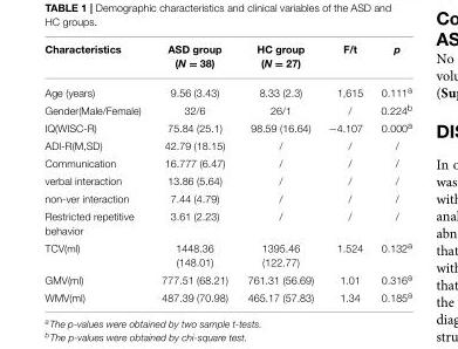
<table><thead><tr><td>Characteristics</td><td>ASD group (N = 38)</td><td>HC group (N = 27)</td><td>F/t</td><td>p</td></tr></thead><tbody><tr><td>Age (years)</td><td>9.56 (3.43)</td><td>8.33 (2.3)</td><td>1,615</td><td>0.111<sup>a</sup></td></tr><tr><td>Gender(Male/Female)</td><td>32/6</td><td>26/1</td><td>/</td><td>0.224<sup>b</sup></td></tr><tr><td>IQ(WISC-R)</td><td>75.84 (25.1)</td><td>98.59 (16.64)</td><td>−4.107</td><td>0.000<sup>a</sup></td></tr><tr><td>ADI-R(M,SD)</td><td>42.79 (18.15)</td><td>/</td><td>/</td><td>/</td></tr><tr><td>Communication</td><td>16.777 (6.47)</td><td>/</td><td>/</td><td>/</td></tr><tr><td>verbal interaction</td><td>13.86 (5.64)</td><td>/</td><td>/</td><td>/</td></tr><tr><td>non-ver interaction</td><td>7.44 (4.79)</td><td>/</td><td>/</td><td>/</td></tr><tr><td>Restricted repetitive behavior</td><td>3.61 (2.23)</td><td>/</td><td>/</td><td>/</td></tr><tr><td>TCV(ml)</td><td>1448.36 (148.01)</td><td>1395.46 (122.77)</td><td>1.524</td><td>0.132<sup>a</sup></td></tr><tr><td>GMV(ml)</td><td>777.51 (68.21)</td><td>761.31 (56.69)</td><td>1.01</td><td>0.316<sup>a</sup></td></tr><tr><td>WMV(ml)</td><td>487.39 (70.98)</td><td>465.17 (57.83)</td><td>1.34</td><td>0.185<sup>a</sup></td></tr></tbody></table>